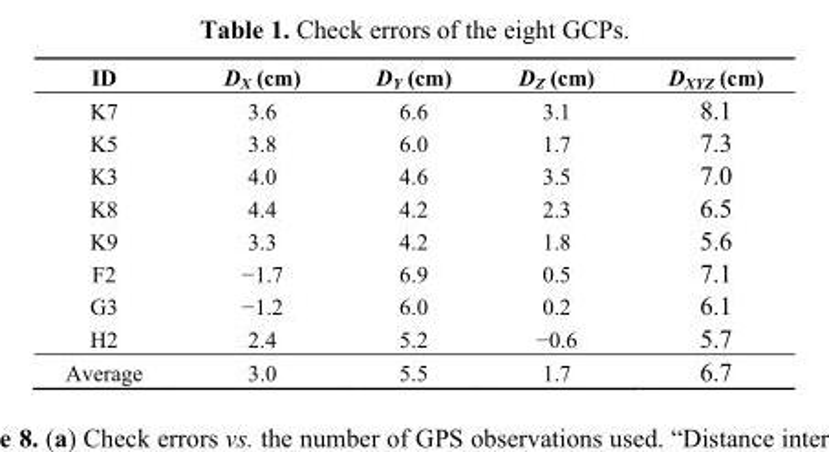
<table><thead><tr><td>ID</td><td>D<sub>X</sub> (cm)</td><td>D<sub>Y</sub> (cm)</td><td>D<sub>Z</sub> (cm)</td><td>D<sub>XYZ</sub> (cm)</td></tr></thead><tbody><tr><td>K7</td><td>3.6</td><td>6.6</td><td>3.1</td><td>8.1</td></tr><tr><td>K5</td><td>3.8</td><td>6.0</td><td>1.7</td><td>7.3</td></tr><tr><td>K3</td><td>4.0</td><td>4.6</td><td>3.5</td><td>7.0</td></tr><tr><td>K8</td><td>4.4</td><td>4.2</td><td>2.3</td><td>6.5</td></tr><tr><td>K9</td><td>3.3</td><td>4.2</td><td>1.8</td><td>5.6</td></tr><tr><td>F2</td><td>−1.7</td><td>6.9</td><td>0.5</td><td>7.1</td></tr><tr><td>G3</td><td>−1.2</td><td>6.0</td><td>0.2</td><td>6.1</td></tr><tr><td>H2</td><td>2.4</td><td>5.2</td><td>−0.6</td><td>5.7</td></tr><tr><td>Average</td><td>3.0</td><td>5.5</td><td>1.7</td><td>6.7</td></tr></tbody></table>